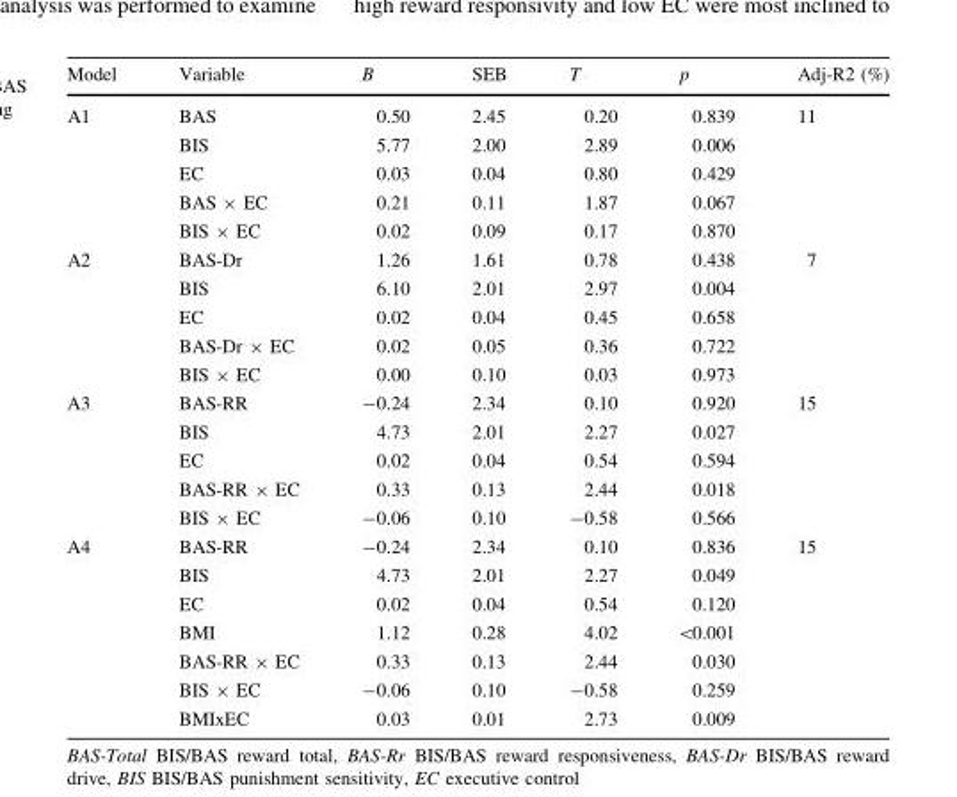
<table><thead><tr><td>Model</td><td>Variable</td><td>B</td><td>SEB</td><td>T</td><td>p</td><td>Adj-R2 (%)</td></tr></thead><tbody><tr><td rowspan="5">A1</td><td>BAS</td><td>0.50</td><td>2.45</td><td>0.20</td><td>0.839</td><td rowspan="5">11</td></tr><tr><td>BIS</td><td>5.77</td><td>2.00</td><td>2.89</td><td>0.006</td></tr><tr><td>EC</td><td>0.03</td><td>0.04</td><td>0.80</td><td>0.429</td></tr><tr><td>BAS × EC</td><td>0.21</td><td>0.11</td><td>1.87</td><td>0.067</td></tr><tr><td>BIS × EC</td><td>0.02</td><td>0.09</td><td>0.17</td><td>0.870</td></tr><tr><td rowspan="5">A2</td><td>BAS-Dr</td><td>1.26</td><td>1.61</td><td>0.78</td><td>0.438</td><td rowspan="5">7</td></tr><tr><td>BIS</td><td>6.10</td><td>2.01</td><td>2.97</td><td>0.004</td></tr><tr><td>EC</td><td>0.02</td><td>0.04</td><td>0.45</td><td>0.658</td></tr><tr><td>BAS-Dr × EC</td><td>0.02</td><td>0.05</td><td>0.36</td><td>0.722</td></tr><tr><td>BIS × EC</td><td>0.00</td><td>0.10</td><td>0.03</td><td>0.973</td></tr><tr><td rowspan="5">A3</td><td>BAS-RR</td><td>-0.24</td><td>2.34</td><td>0.10</td><td>0.920</td><td rowspan="5">15</td></tr><tr><td>BIS</td><td>4.73</td><td>2.01</td><td>2.27</td><td>0.027</td></tr><tr><td>EC</td><td>0.02</td><td>0.04</td><td>0.54</td><td>0.594</td></tr><tr><td>BAS-RR × EC</td><td>0.33</td><td>0.13</td><td>2.44</td><td>0.018</td></tr><tr><td>BIS × EC</td><td>-0.06</td><td>0.10</td><td>-0.58</td><td>0.566</td></tr><tr><td rowspan="7">A4</td><td>BAS-RR</td><td>-0.24</td><td>2.34</td><td>0.10</td><td>0.836</td><td rowspan="7">15</td></tr><tr><td>BIS</td><td>4.73</td><td>2.01</td><td>2.27</td><td>0.049</td></tr><tr><td>EC</td><td>0.02</td><td>0.04</td><td>0.54</td><td>0.120</td></tr><tr><td>BMI</td><td>1.12</td><td>0.28</td><td>4.02</td><td>&lt;0.001</td></tr><tr><td>BAS-RR × EC</td><td>0.33</td><td>0.13</td><td>2.44</td><td>0.030</td></tr><tr><td>BIS × EC</td><td>-0.06</td><td>0.10</td><td>-0.58</td><td>0.259</td></tr><tr><td>BMIxEC</td><td>0.03</td><td>0.01</td><td>2.73</td><td>0.009</td></tr></tbody></table>